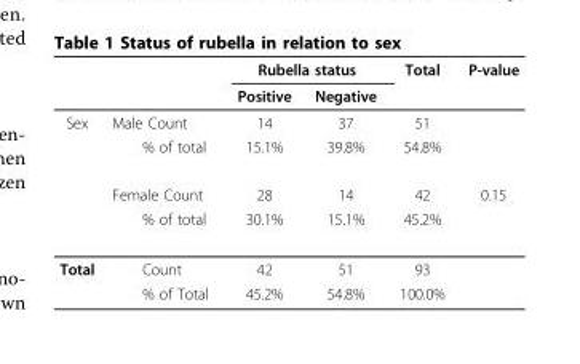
<table><thead><tr><td rowspan="2"></td><td rowspan="2"></td><td colspan="2">Rubella status</td><td rowspan="2">Total</td><td rowspan="2">P-value</td></tr><tr><td>Positive</td><td>Negative</td></tr></thead><tbody><tr><td rowspan="4">Sex</td><td>Male Count</td><td>14</td><td>37</td><td>51</td><td></td></tr><tr><td>% of total</td><td>15.1%</td><td>39.8%</td><td>54.8%</td><td></td></tr><tr><td>Female Count</td><td>28</td><td>14</td><td>42</td><td>0.15</td></tr><tr><td>% of total</td><td>30.1%</td><td>15.1%</td><td>45.2%</td><td></td></tr><tr><td rowspan="2">Total</td><td>Count</td><td>42</td><td>51</td><td>93</td><td></td></tr><tr><td>% of Total</td><td>45.2%</td><td>54.8%</td><td>100.0%</td><td></td></tr></tbody></table>